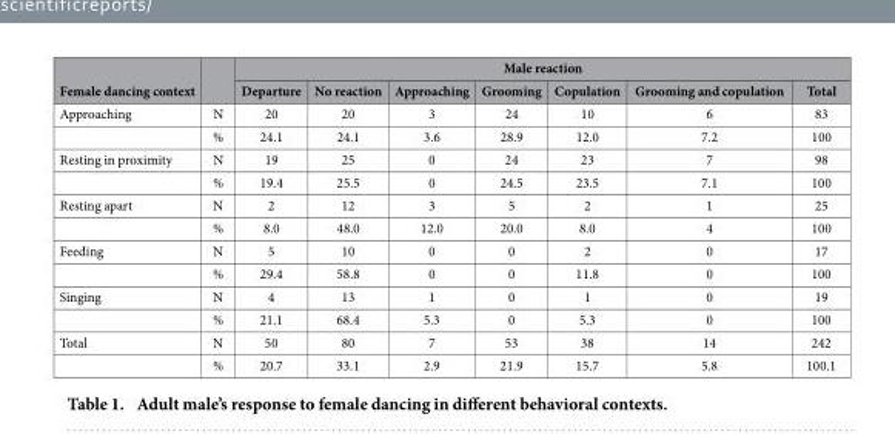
<table><thead><tr><td rowspan="2">Female dancing context</td><td rowspan="2"></td><td colspan="7">Male reaction</td></tr><tr><td>Departure</td><td>No reaction</td><td>Approaching</td><td>Grooming</td><td>Copulation</td><td>Grooming and copulation</td><td>Total</td></tr></thead><tbody><tr><td rowspan="2">Approaching</td><td>N</td><td>20</td><td>20</td><td>3</td><td>24</td><td>10</td><td>6</td><td>83</td></tr><tr><td>%</td><td>24.1</td><td>24.1</td><td>3.6</td><td>28.9</td><td>12.0</td><td>7.2</td><td>100</td></tr><tr><td rowspan="2">Resting in proximity</td><td>N</td><td>19</td><td>25</td><td>0</td><td>24</td><td>23</td><td>7</td><td>98</td></tr><tr><td>%</td><td>19.4</td><td>25.5</td><td>0</td><td>24.5</td><td>23.5</td><td>7.1</td><td>100</td></tr><tr><td rowspan="2">Resting apart</td><td>N</td><td>2</td><td>12</td><td>3</td><td>5</td><td>2</td><td>1</td><td>25</td></tr><tr><td>%</td><td>8.0</td><td>48.0</td><td>12.0</td><td>20.0</td><td>8.0</td><td>4</td><td>100</td></tr><tr><td rowspan="2">Feeding</td><td>N</td><td>5</td><td>10</td><td>0</td><td>0</td><td>2</td><td>0</td><td>17</td></tr><tr><td>%</td><td>29.4</td><td>58.8</td><td>0</td><td>0</td><td>11.8</td><td>0</td><td>100</td></tr><tr><td rowspan="2">Singing</td><td>N</td><td>4</td><td>13</td><td>1</td><td>0</td><td>1</td><td>0</td><td>19</td></tr><tr><td>%</td><td>21.1</td><td>68.4</td><td>5.3</td><td>0</td><td>5.3</td><td>0</td><td>100</td></tr><tr><td rowspan="2">Total</td><td>N</td><td>50</td><td>80</td><td>7</td><td>53</td><td>38</td><td>14</td><td>242</td></tr><tr><td>%</td><td>20.7</td><td>33.1</td><td>2.9</td><td>21.9</td><td>15.7</td><td>5.8</td><td>100.1</td></tr></tbody></table>